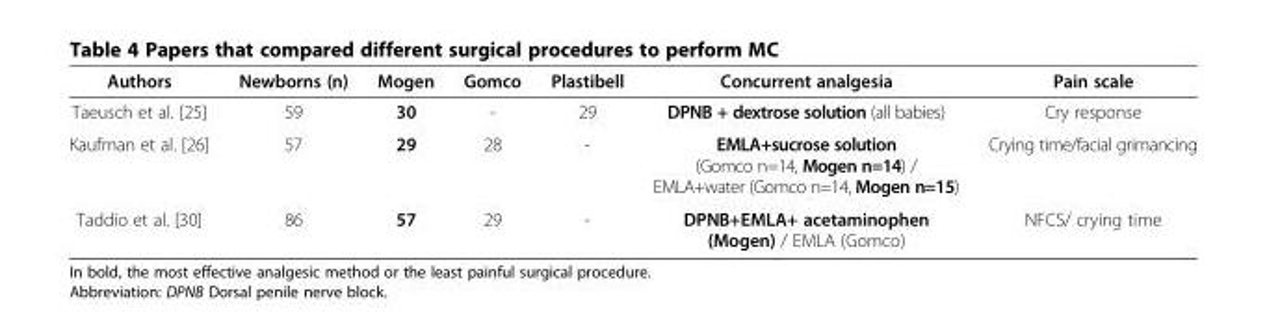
<table><thead><tr><td>Authors</td><td>Newborns (n)</td><td>Mogen</td><td>Gomco</td><td>Plastibell</td><td>Concurrent analgesia</td><td>Pain scale</td></tr></thead><tbody><tr><td>Taeusch et al. [25]</td><td>59</td><td>30</td><td>-</td><td>29</td><td>DPNB + dextrose solution (all babies)</td><td>Cry response</td></tr><tr><td>Kaufman et al. [26]</td><td>57</td><td>29</td><td>28</td><td>-</td><td>EMLA+sucrose solution (Gomco n=14, Mogen n=14) / EMLA+water (Gomco n=14, Mogen n=15)</td><td>Crying time/facial grimancing</td></tr><tr><td>Taddio et al. [30]</td><td>86</td><td>57</td><td>29</td><td>-</td><td>DPNB+EMLA+ acetaminophen (Mogen) / EMLA (Gomco)</td><td>NFCS/ crying time</td></tr></tbody></table>